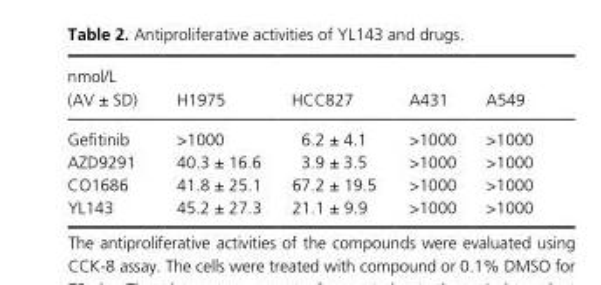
<table><thead><tr><td>nmol/L (AV ± SD)</td><td>H1975</td><td>HCC827</td><td>A431</td><td>A549</td></tr></thead><tbody><tr><td>Gefitinib</td><td>&gt;1000</td><td>6.2 ± 4.1</td><td>&gt;1000</td><td>&gt;1000</td></tr><tr><td>AZD9291</td><td>40.3 ± 16.6</td><td>3.9 ± 3.5</td><td>&gt;1000</td><td>&gt;1000</td></tr><tr><td>CO1686</td><td>41.8 ± 25.1</td><td>67.2 ± 19.5</td><td>&gt;1000</td><td>&gt;1000</td></tr><tr><td>YL143</td><td>45.2 ± 27.3</td><td>21.1 ± 9.9</td><td>&gt;1000</td><td>&gt;1000</td></tr></tbody></table>